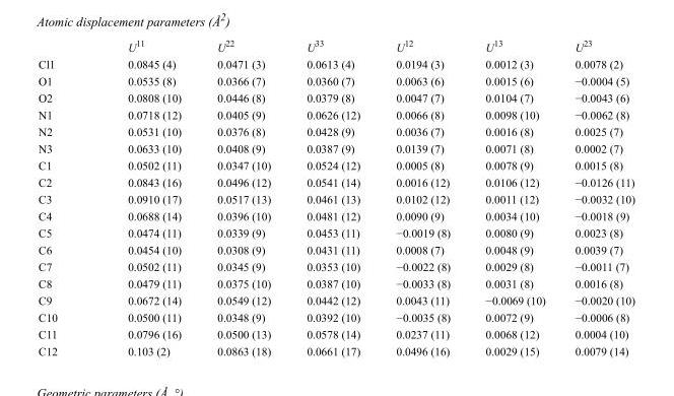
<table><thead><tr><td></td><td>U<sup>11</sup></td><td>U<sup>22</sup></td><td>U<sup>33</sup></td><td>U<sup>12</sup></td><td>U<sup>13</sup></td><td>U<sup>23</sup></td></tr></thead><tbody><tr><td>Cl1</td><td>0.0845 (4)</td><td>0.0471 (3)</td><td>0.0613 (4)</td><td>0.0194 (3)</td><td>0.0012 (3)</td><td>0.0078 (2)</td></tr><tr><td>O1</td><td>0.0535 (8)</td><td>0.0366 (7)</td><td>0.0360 (7)</td><td>0.0063 (6)</td><td>0.0015 (6)</td><td>−0.0004 (5)</td></tr><tr><td>O2</td><td>0.0808 (10)</td><td>0.0446 (8)</td><td>0.0379 (8)</td><td>0.0047 (7)</td><td>0.0104 (7)</td><td>−0.0043 (6)</td></tr><tr><td>N1</td><td>0.0718 (12)</td><td>0.0405 (9)</td><td>0.0626 (12)</td><td>0.0066 (8)</td><td>0.0098 (10)</td><td>−0.0062 (8)</td></tr><tr><td>N2</td><td>0.0531 (10)</td><td>0.0376 (8)</td><td>0.0428 (9)</td><td>0.0036 (7)</td><td>0.0016 (8)</td><td>0.0025 (7)</td></tr><tr><td>N3</td><td>0.0633 (10)</td><td>0.0408 (9)</td><td>0.0387 (9)</td><td>0.0139 (7)</td><td>0.0071 (8)</td><td>0.0002 (7)</td></tr><tr><td>C1</td><td>0.0502 (11)</td><td>0.0347 (10)</td><td>0.0524 (12)</td><td>0.0005 (8)</td><td>0.0078 (9)</td><td>0.0015 (8)</td></tr><tr><td>C2</td><td>0.0843 (16)</td><td>0.0496 (12)</td><td>0.0541 (14)</td><td>0.0016 (12)</td><td>0.0106 (12)</td><td>−0.0126 (11)</td></tr><tr><td>C3</td><td>0.0910 (17)</td><td>0.0517 (13)</td><td>0.0461 (13)</td><td>0.0102 (12)</td><td>0.0011 (12)</td><td>−0.0032 (10)</td></tr><tr><td>C4</td><td>0.0688 (14)</td><td>0.0396 (10)</td><td>0.0481 (12)</td><td>0.0090 (9)</td><td>0.0034 (10)</td><td>−0.0018 (9)</td></tr><tr><td>C5</td><td>0.0474 (11)</td><td>0.0339 (9)</td><td>0.0453 (11)</td><td>−0.0019 (8)</td><td>0.0080 (9)</td><td>0.0023 (8)</td></tr><tr><td>C6</td><td>0.0454 (10)</td><td>0.0308 (9)</td><td>0.0431 (11)</td><td>0.0008 (7)</td><td>0.0048 (9)</td><td>0.0039 (7)</td></tr><tr><td>C7</td><td>0.0502 (11)</td><td>0.0345 (9)</td><td>0.0353 (10)</td><td>−0.0022 (8)</td><td>0.0029 (8)</td><td>−0.0011 (7)</td></tr><tr><td>C8</td><td>0.0479 (11)</td><td>0.0375 (10)</td><td>0.0387 (10)</td><td>−0.0033 (8)</td><td>0.0031 (8)</td><td>0.0016 (8)</td></tr><tr><td>C9</td><td>0.0672 (14)</td><td>0.0549 (12)</td><td>0.0442 (12)</td><td>0.0043 (11)</td><td>−0.0069 (10)</td><td>−0.0020 (10)</td></tr><tr><td>C10</td><td>0.0500 (11)</td><td>0.0348 (9)</td><td>0.0392 (10)</td><td>−0.0035 (8)</td><td>0.0072 (9)</td><td>−0.0006 (8)</td></tr><tr><td>C11</td><td>0.0796 (16)</td><td>0.0500 (13)</td><td>0.0578 (14)</td><td>0.0237 (11)</td><td>0.0068 (12)</td><td>0.0004 (10)</td></tr><tr><td>C12</td><td>0.103 (2)</td><td>0.0863 (18)</td><td>0.0661 (17)</td><td>0.0496 (16)</td><td>0.0029 (15)</td><td>0.0079 (14)</td></tr></tbody></table>